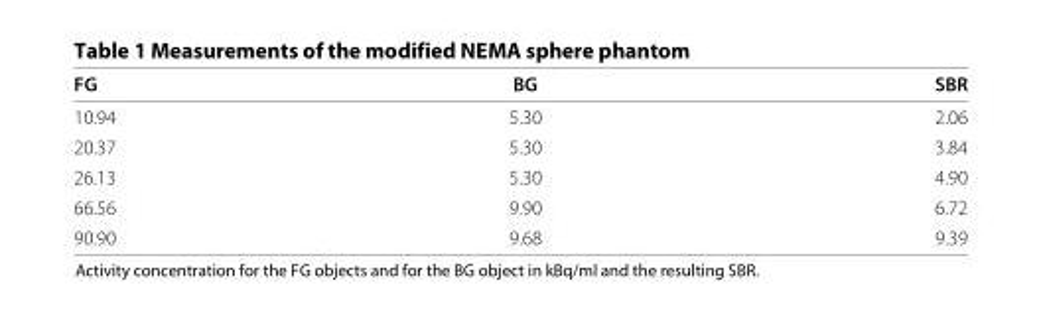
<table><thead><tr><td>FG</td><td>BG</td><td>SBR</td></tr></thead><tbody><tr><td>10.94</td><td>5.30</td><td>2.06</td></tr><tr><td>20.37</td><td>5.30</td><td>3.84</td></tr><tr><td>26.13</td><td>5.30</td><td>4.90</td></tr><tr><td>66.56</td><td>9.90</td><td>6.72</td></tr><tr><td>90.90</td><td>9.68</td><td>9.39</td></tr></tbody></table>